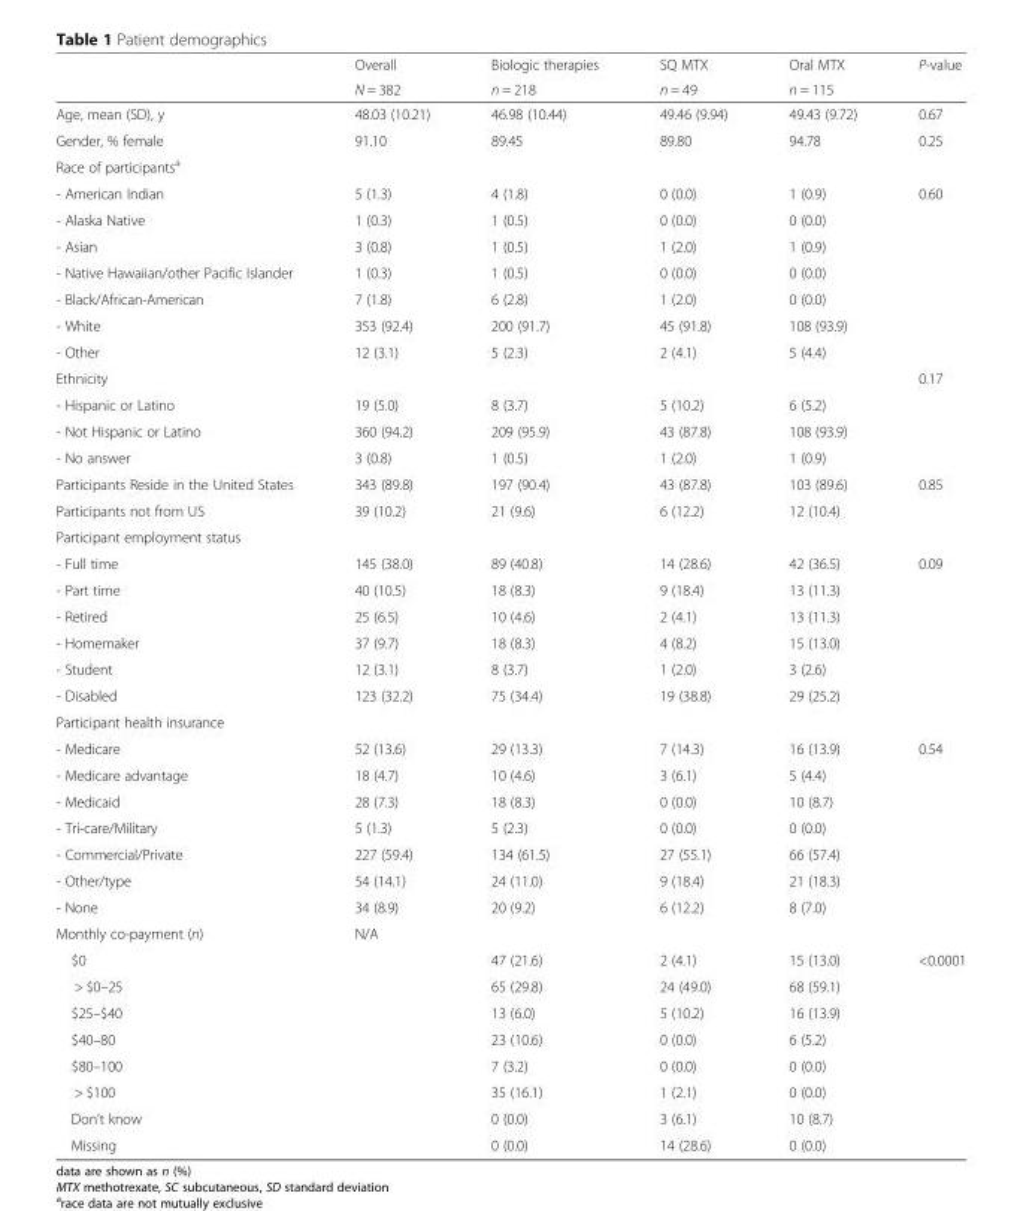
<table><thead><tr><td rowspan="2"></td><td rowspan="2">Overall N = 382</td><td rowspan="2">Biologic therapies n = 218</td><td rowspan="2">SQ MTX n = 49</td><td rowspan="2">Oral MTX n = 115</td><td rowspan="2">P-value</td></tr><tr></tr></thead><tbody><tr><td>Age, mean (SD), y</td><td>48.03 (10.21)</td><td>46.98 (10.44)</td><td>49.46 (9.94)</td><td>49.43 (9.72)</td><td>0.67</td></tr><tr><td>Gender, % female</td><td>91.10</td><td>89.45</td><td>89.80</td><td>94.78</td><td>0.25</td></tr><tr><td colspan="6">Race of participants<sup>a</sup></td></tr><tr><td>- American Indian</td><td>5 (1.3)</td><td>4 (1.8)</td><td>0 (0.0)</td><td>1 (0.9)</td><td rowspan="7">0.60</td></tr><tr><td>- Alaska Native</td><td>1 (0.3)</td><td>1 (0.5)</td><td>0 (0.0)</td><td>0 (0.0)</td></tr><tr><td>- Asian</td><td>3 (0.8)</td><td>1 (0.5)</td><td>1 (2.0)</td><td>1 (0.9)</td></tr><tr><td>- Native Hawaiian/other Pacific Islander</td><td>1 (0.3)</td><td>1 (0.5)</td><td>0 (0.0)</td><td>0 (0.0)</td></tr><tr><td>- Black/African-American</td><td>7 (1.8)</td><td>6 (2.8)</td><td>1 (2.0)</td><td>0 (0.0)</td></tr><tr><td>- White</td><td>353 (92.4)</td><td>200 (91.7)</td><td>45 (91.8)</td><td>108 (93.9)</td></tr><tr><td>- Other</td><td>12 (3.1)</td><td>5 (2.3)</td><td>2 (4.1)</td><td>5 (4.4)</td></tr><tr><td>Ethnicity</td><td></td><td></td><td></td><td></td><td>0.17</td></tr><tr><td>- Hispanic or Latino</td><td>19 (5.0)</td><td>8 (3.7)</td><td>5 (10.2)</td><td>6 (5.2)</td><td rowspan="3"></td></tr><tr><td>- Not Hispanic or Latino</td><td>360 (94.2)</td><td>209 (95.9)</td><td>43 (87.8)</td><td>108 (93.9)</td></tr><tr><td>- No answer</td><td>3 (0.8)</td><td>1 (0.5)</td><td>1 (2.0)</td><td>1 (0.9)</td></tr><tr><td>Participants Reside in the United States</td><td>343 (89.8)</td><td>197 (90.4)</td><td>43 (87.8)</td><td>103 (89.6)</td><td>0.85</td></tr><tr><td>Participants not from US</td><td>39 (10.2)</td><td>21 (9.6)</td><td>6 (12.2)</td><td>12 (10.4)</td><td></td></tr><tr><td colspan="6">Participant employment status</td></tr><tr><td>- Full time</td><td>145 (38.0)</td><td>89 (40.8)</td><td>14 (28.6)</td><td>42 (36.5)</td><td rowspan="6">0.09</td></tr><tr><td>- Part time</td><td>40 (10.5)</td><td>18 (8.3)</td><td>9 (18.4)</td><td>13 (11.3)</td></tr><tr><td>- Retired</td><td>25 (6.5)</td><td>10 (4.6)</td><td>2 (4.1)</td><td>13 (11.3)</td></tr><tr><td>- Homemaker</td><td>37 (9.7)</td><td>18 (8.3)</td><td>4 (8.2)</td><td>15 (13.0)</td></tr><tr><td>- Student</td><td>12 (3.1)</td><td>8 (3.7)</td><td>1 (2.0)</td><td>3 (2.6)</td></tr><tr><td>- Disabled</td><td>123 (32.2)</td><td>75 (34.4)</td><td>19 (38.8)</td><td>29 (25.2)</td></tr><tr><td colspan="6">Participant health insurance</td></tr><tr><td>- Medicare</td><td>52 (13.6)</td><td>29 (13.3)</td><td>7 (14.3)</td><td>16 (13.9)</td><td rowspan="7">0.54</td></tr><tr><td>- Medicare advantage</td><td>18 (4.7)</td><td>10 (4.6)</td><td>3 (6.1)</td><td>5 (4.4)</td></tr><tr><td>- Medicaid</td><td>28 (7.3)</td><td>18 (8.3)</td><td>0 (0.0)</td><td>10 (8.7)</td></tr><tr><td>- Tri-care/Military</td><td>5 (1.3)</td><td>5 (2.3)</td><td>0 (0.0)</td><td>0 (0.0)</td></tr><tr><td>- Commercial/Private</td><td>227 (59.4)</td><td>134 (61.5)</td><td>27 (55.1)</td><td>66 (57.4)</td></tr><tr><td>- Other/type</td><td>54 (14.1)</td><td>24 (11.0)</td><td>9 (18.4)</td><td>21 (18.3)</td></tr><tr><td>- None</td><td>34 (8.9)</td><td>20 (9.2)</td><td>6 (12.2)</td><td>8 (7.0)</td></tr><tr><td>Monthly co-payment (n)</td><td>N/A</td><td></td><td></td><td colspan="2"></td></tr><tr><td>$0</td><td></td><td>47 (21.6)</td><td>2 (4.1)</td><td>15 (13.0)</td><td rowspan="8">&lt;0.0001</td></tr><tr><td>&gt; $0–25</td><td></td><td>65 (29.8)</td><td>24 (49.0)</td><td>68 (59.1)</td></tr><tr><td>$25–$40</td><td></td><td>13 (6.0)</td><td>5 (10.2)</td><td>16 (13.9)</td></tr><tr><td>$40–80</td><td></td><td>23 (10.6)</td><td>0 (0.0)</td><td>6 (5.2)</td></tr><tr><td>$80–100</td><td></td><td>7 (3.2)</td><td>0 (0.0)</td><td>0 (0.0)</td></tr><tr><td>&gt; $100</td><td></td><td>35 (16.1)</td><td>1 (2.1)</td><td>0 (0.0)</td></tr><tr><td>Don’t know</td><td></td><td>0 (0.0)</td><td>3 (6.1)</td><td>10 (8.7)</td></tr><tr><td>Missing</td><td></td><td>0 (0.0)</td><td>14 (28.6)</td><td>0 (0.0)</td></tr></tbody></table>